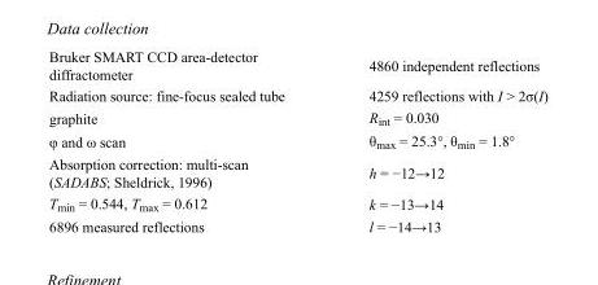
<table><tbody><tr><td>Bruker SMART CCD area-detector diffractometer</td><td>4860 independent reflections</td></tr><tr><td>Radiation source: fine-focus sealed tube</td><td>4259 reflections with I &gt; 2σ(I)</td></tr><tr><td>graphite</td><td>R<sub>int</sub> = 0.030</td></tr><tr><td>φ and ω scan</td><td>θ<sub>max</sub> = 25.3°, θ<sub>min</sub> = 1.8°</td></tr><tr><td>Absorption correction: multi-scan (SADABS; Sheldrick, 1996)</td><td>h = −12→12</td></tr><tr><td>T<sub>min</sub> = 0.544, T<sub>max</sub> = 0.612</td><td>k = −13→14</td></tr><tr><td>6896 measured reflections</td><td>l = −14→13</td></tr></tbody></table>